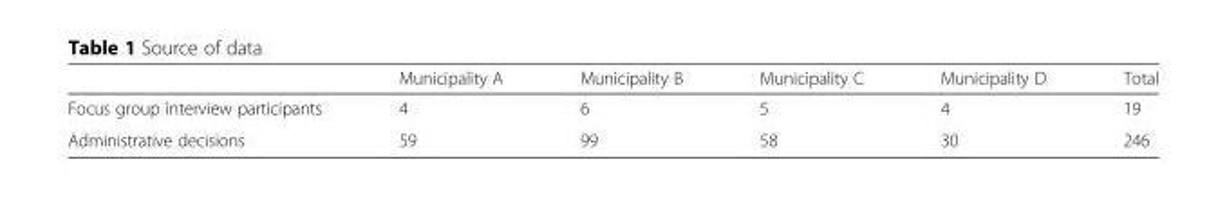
<table><thead><tr><td></td><td>Municipality A</td><td>Municipality B</td><td>Municipality C</td><td>Municipality D</td><td>Total</td></tr></thead><tbody><tr><td>Focus group interview participants</td><td>4</td><td>6</td><td>5</td><td>4</td><td>19</td></tr><tr><td>Administrative decisions</td><td>59</td><td>99</td><td>58</td><td>30</td><td>246</td></tr></tbody></table>